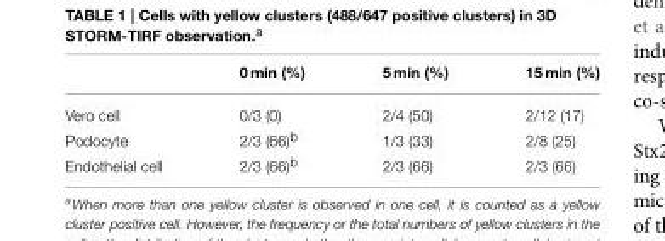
<table><thead><tr><td></td><td>0 min (%)</td><td>5 min (%)</td><td>15 min (%)</td></tr></thead><tbody><tr><td>Vero cell</td><td>0/3 (0)</td><td>2/4 (50)</td><td>2/12 (17)</td></tr><tr><td>Podocyte</td><td>2/3 (66)<sup>b</sup></td><td>1/3 (33)</td><td>2/8 (25)</td></tr><tr><td>Endothelial cell</td><td>2/3 (66)<sup>b</sup></td><td>2/3 (66)</td><td>2/3 (66)</td></tr></tbody></table>